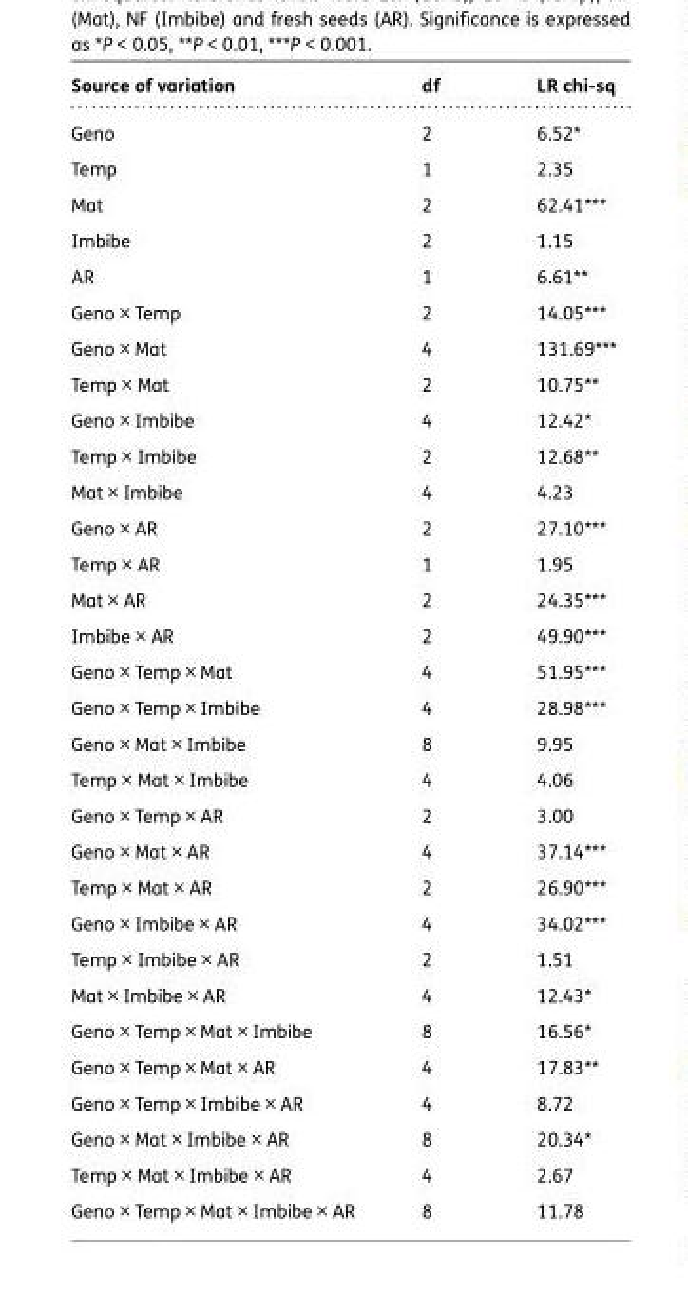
<table><thead><tr><td>Source of variation</td><td>df</td><td>LR chi-sq</td></tr></thead><tbody><tr><td>Geno</td><td>2</td><td>6.52*</td></tr><tr><td>Temp</td><td>1</td><td>2.35</td></tr><tr><td>Mat</td><td>2</td><td>62.41***</td></tr><tr><td>Imbibe</td><td>2</td><td>1.15</td></tr><tr><td>AR</td><td>1</td><td>6.61**</td></tr><tr><td>Geno × Temp</td><td>2</td><td>14.05***</td></tr><tr><td>Geno × Mat</td><td>4</td><td>131.69***</td></tr><tr><td>Temp × Mat</td><td>2</td><td>10.75**</td></tr><tr><td>Geno × Imbibe</td><td>4</td><td>12.42*</td></tr><tr><td>Temp × Imbibe</td><td>2</td><td>12.68**</td></tr><tr><td>Mat × Imbibe</td><td>4</td><td>4.23</td></tr><tr><td>Geno × AR</td><td>2</td><td>27.10***</td></tr><tr><td>Temp × AR</td><td>1</td><td>1.95</td></tr><tr><td>Mat × AR</td><td>2</td><td>24.35***</td></tr><tr><td>Imbibe × AR</td><td>2</td><td>49.90***</td></tr><tr><td>Geno × Temp × Mat</td><td>4</td><td>51.95***</td></tr><tr><td>Geno × Temp × Imbibe</td><td>4</td><td>28.98***</td></tr><tr><td>Geno × Mat × Imbibe</td><td>8</td><td>9.95</td></tr><tr><td>Temp × Mat × Imbibe</td><td>4</td><td>4.06</td></tr><tr><td>Geno × Temp × AR</td><td>2</td><td>3.00</td></tr><tr><td>Geno × Mat × AR</td><td>4</td><td>37.14***</td></tr><tr><td>Temp × Mat × AR</td><td>2</td><td>26.90***</td></tr><tr><td>Geno × Imbibe × AR</td><td>4</td><td>34.02***</td></tr><tr><td>Temp × Imbibe × AR</td><td>2</td><td>1.51</td></tr><tr><td>Mat × Imbibe × AR</td><td>4</td><td>12.43*</td></tr><tr><td>Geno × Temp × Mat × Imbibe</td><td>8</td><td>16.56*</td></tr><tr><td>Geno × Temp × Mat × AR</td><td>4</td><td>17.83**</td></tr><tr><td>Geno × Temp × Imbibe × AR</td><td>4</td><td>8.72</td></tr><tr><td>Geno × Mat × Imbibe × AR</td><td>8</td><td>20.34*</td></tr><tr><td>Temp × Mat × Imbibe × AR</td><td>4</td><td>2.67</td></tr><tr><td>Geno × Temp × Mat × Imbibe × AR</td><td>8</td><td>11.78</td></tr></tbody></table>